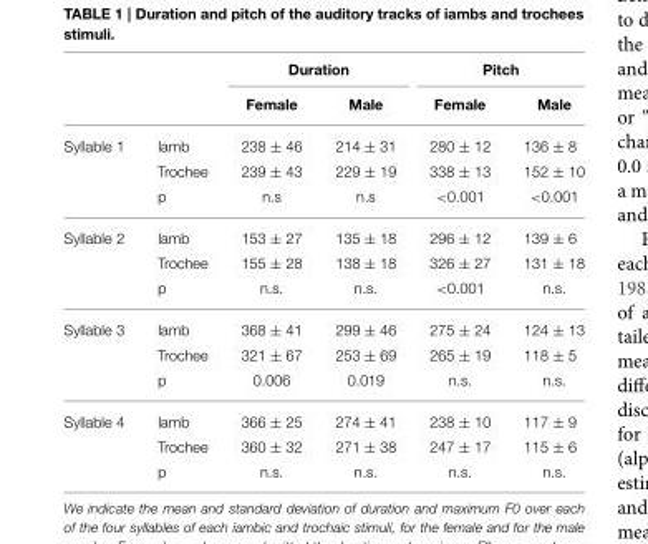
<table><thead><tr><td rowspan="2"></td><td rowspan="2"></td><td colspan="2">Duration</td><td colspan="2">Pitch</td></tr><tr><td>Female</td><td>Male</td><td>Female</td><td>Male</td></tr></thead><tbody><tr><td rowspan="3">Syllable 1</td><td>Iamb</td><td>238 ± 46</td><td>214 ± 31</td><td>280 ± 12</td><td>136 ± 8</td></tr><tr><td>Trochee</td><td>239 ± 43</td><td>229 ± 19</td><td>338 ± 13</td><td>152 ± 10</td></tr><tr><td>p</td><td>n.s</td><td>n.s</td><td>&lt;0.001</td><td>&lt;0.001</td></tr><tr><td rowspan="3">Syllable 2</td><td>Iamb</td><td>153 ± 27</td><td>135 ± 18</td><td>296 ± 12</td><td>139 ± 6</td></tr><tr><td>Trochee</td><td>155 ± 28</td><td>138 ± 18</td><td>326 ± 27</td><td>131 ± 18</td></tr><tr><td>p</td><td>n.s.</td><td>n.s.</td><td>&lt;0.001</td><td>n.s.</td></tr><tr><td rowspan="3">Syllable 3</td><td>Iamb</td><td>368 ± 41</td><td>299 ± 46</td><td>275 ± 24</td><td>124 ± 13</td></tr><tr><td>Trochee</td><td>321 ± 67</td><td>253 ± 69</td><td>265 ± 19</td><td>118 ± 5</td></tr><tr><td>p</td><td>0.006</td><td>0.019</td><td>n.s.</td><td>n.s.</td></tr><tr><td rowspan="3">Syllable 4</td><td>Iamb</td><td>366 ± 25</td><td>274 ± 41</td><td>238 ± 10</td><td>117 ± 9</td></tr><tr><td>Trochee</td><td>360 ± 32</td><td>271 ± 38</td><td>247 ± 17</td><td>115 ± 6</td></tr><tr><td>p</td><td>n.s.</td><td>n.s.</td><td>n.s.</td><td>n.s.</td></tr></tbody></table>